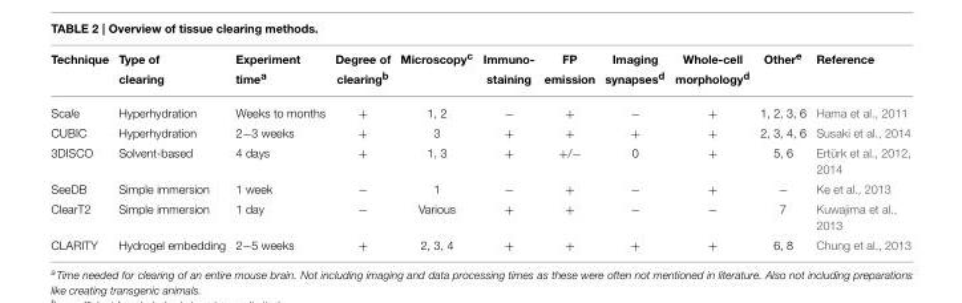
<table><thead><tr><td>Technique</td><td>Type of clearing</td><td>Experiment time<sup>a</sup></td><td>Degree of clearing<sup>b</sup></td><td>Microscopy<sup>c</sup></td><td>Immuno- staining</td><td>FP emission</td><td>Imaging synapses<sup>d</sup></td><td>Whole-cell morphology<sup>d</sup></td><td>Other<sup>e</sup></td><td>Reference</td></tr></thead><tbody><tr><td>Scale</td><td>Hyperhydration</td><td>Weeks to months</td><td>+</td><td>1, 2</td><td>−</td><td>+</td><td>−</td><td>+</td><td>1, 2, 3, 6</td><td>Hama et al., 2011</td></tr><tr><td>CUBIC</td><td>Hyperhydration</td><td>2−3 weeks</td><td>+</td><td>3</td><td>+</td><td>+</td><td>+</td><td>+</td><td>2, 3, 4, 6</td><td>Susaki et al., 2014</td></tr><tr><td>3DISCO</td><td>Solvent-based</td><td>4 days</td><td>+</td><td>1, 3</td><td>+</td><td>+/−</td><td>0</td><td>+</td><td>5, 6</td><td>Ertürk et al., 2012, 2014</td></tr><tr><td>SeeDB</td><td>Simple immersion</td><td>1 week</td><td>−</td><td>1</td><td>−</td><td>+</td><td>−</td><td>+</td><td>−</td><td>Ke et al., 2013</td></tr><tr><td>ClearT2</td><td>Simple immersion</td><td>1 day</td><td>−</td><td>Various</td><td>+</td><td>+</td><td>−</td><td>−</td><td>7</td><td>Kuwajima et al., 2013</td></tr><tr><td>CLARITY</td><td>Hydrogel embedding</td><td>2−5 weeks</td><td>+</td><td>2, 3, 4</td><td>+</td><td>+</td><td>+</td><td>+</td><td>6, 8</td><td>Chung et al., 2013</td></tr></tbody></table>